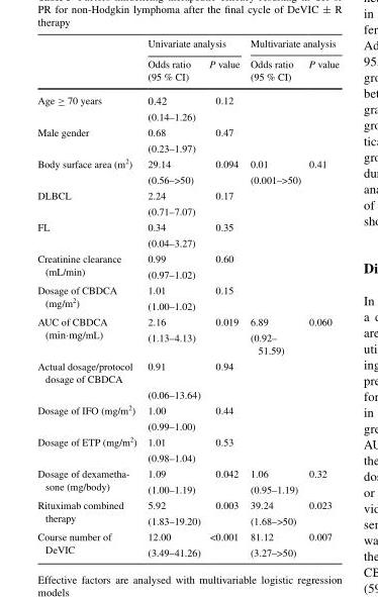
<table><thead><tr><td rowspan="2"></td><td colspan="2">Univariate analysis</td><td colspan="2">Multivariate analysis</td></tr><tr><td>Odds ratio (95 % CI)</td><td>P value</td><td>Odds ratio (95 % CI)</td><td>P value</td></tr></thead><tbody><tr><td rowspan="2">Age ≥ 70 years</td><td>0.42</td><td>0.12</td><td></td><td></td></tr><tr><td>(0.14–1.26)</td><td></td><td></td><td></td></tr><tr><td rowspan="2">Male gender</td><td>0.68</td><td>0.47</td><td></td><td></td></tr><tr><td>(0.23–1.97)</td><td></td><td></td><td></td></tr><tr><td rowspan="2">Body surface area (m<sup>2</sup>)</td><td>29.14</td><td>0.094</td><td>0.01</td><td>0.41</td></tr><tr><td>(0.56–&gt;50)</td><td></td><td>(0.001–&gt;50)</td><td></td></tr><tr><td rowspan="2">DLBCL</td><td>2.24</td><td>0.17</td><td></td><td></td></tr><tr><td>(0.71–7.07)</td><td></td><td></td><td></td></tr><tr><td rowspan="2">FL</td><td>0.34</td><td>0.35</td><td></td><td></td></tr><tr><td>(0.04–3.27)</td><td></td><td></td><td></td></tr><tr><td rowspan="2">Creatinine clearance (mL/min)</td><td>0.99</td><td>0.60</td><td></td><td></td></tr><tr><td>(0.97–1.02)</td><td></td><td></td><td></td></tr><tr><td rowspan="2">Dosage of CBDCA (mg/m<sup>2</sup>)</td><td>1.01</td><td>0.15</td><td></td><td></td></tr><tr><td>(1.00–1.02)</td><td></td><td></td><td></td></tr><tr><td rowspan="2">AUC of CBDCA (min·mg/mL)</td><td>2.16</td><td>0.019</td><td>6.89</td><td>0.060</td></tr><tr><td>(1.13–4.13)</td><td></td><td>(0.92– 51.59)</td><td></td></tr><tr><td rowspan="2">Actual dosage/protocol dosage of CBDCA</td><td>0.91</td><td>0.94</td><td></td><td></td></tr><tr><td>(0.06–13.64)</td><td></td><td></td><td></td></tr><tr><td rowspan="2">Dosage of IFO (mg/m<sup>2</sup>)</td><td>1.00</td><td>0.44</td><td></td><td></td></tr><tr><td>(0.99–1.00)</td><td></td><td></td><td></td></tr><tr><td rowspan="2">Dosage of ETP (mg/m<sup>2</sup>)</td><td>1.01</td><td>0.53</td><td></td><td></td></tr><tr><td>(0.98–1.04)</td><td></td><td></td><td></td></tr><tr><td rowspan="2">Dosage of dexametha- sone (mg/body)</td><td>1.09</td><td>0.042</td><td>1.06</td><td>0.32</td></tr><tr><td>(1.00–1.19)</td><td></td><td>(0.95–1.19)</td><td></td></tr><tr><td rowspan="2">Rituximab combined therapy</td><td>5.92</td><td>0.003</td><td>39.24</td><td>0.023</td></tr><tr><td>(1.83–19.20)</td><td></td><td>(1.68–&gt;50)</td><td></td></tr><tr><td rowspan="2">Course number of DeVIC</td><td>12.00</td><td>&lt;0.001</td><td>81.12</td><td>0.007</td></tr><tr><td>(3.49–41.26)</td><td></td><td>(3.27–&gt;50)</td><td></td></tr></tbody></table>